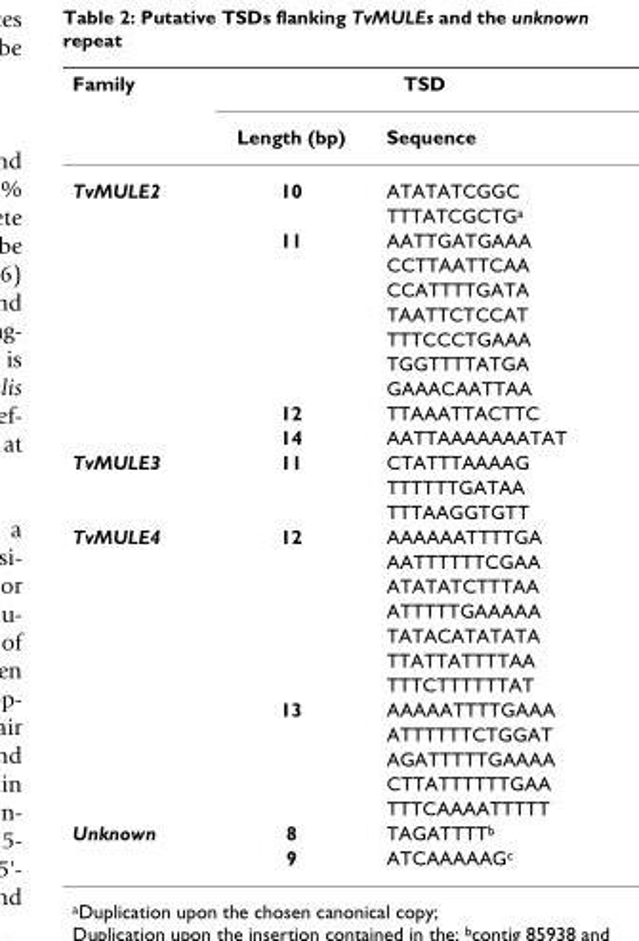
<table><thead><tr><td rowspan="2">Family</td><td colspan="2">TSD</td></tr><tr><td>Length (bp)</td><td>Sequence</td></tr></thead><tbody><tr><td rowspan="11">TvMULE2</td><td>10</td><td>ATATATCGGC</td></tr><tr><td></td><td>TTTATCGCTG<sup>a</sup></td></tr><tr><td>11</td><td>AATTGATGAAA</td></tr><tr><td></td><td>CCTTAATTCAA</td></tr><tr><td></td><td>CCATTTTGATA</td></tr><tr><td></td><td>TAATTCTCCAT</td></tr><tr><td></td><td>TTTCCCTGAAA</td></tr><tr><td></td><td>TGGTTTTATGA</td></tr><tr><td></td><td>GAAACAATTAA</td></tr><tr><td>12</td><td>TTAAATTACTTC</td></tr><tr><td>14</td><td>AATTAAAAAAATAT</td></tr><tr><td rowspan="3">TvMULE3</td><td>11</td><td>CTATTTAAAAG</td></tr><tr><td></td><td>TTTTTTGATAA</td></tr><tr><td></td><td>TTTAAGGTGTT</td></tr><tr><td rowspan="12">TvMULE4</td><td>12</td><td>AAAAAATTTTGA</td></tr><tr><td></td><td>AATTTTTTCGAA</td></tr><tr><td></td><td>ATATATCTTTAA</td></tr><tr><td></td><td>ATTTTTGAAAAA</td></tr><tr><td></td><td>TATACATATATA</td></tr><tr><td></td><td>TTATTATTTTAA</td></tr><tr><td></td><td>TTTCTTTTTTAT</td></tr><tr><td>13</td><td>AAAAATTTTGAAA</td></tr><tr><td></td><td>ATTTTTTCTGGAT</td></tr><tr><td></td><td>AGATTTTTGAAAA</td></tr><tr><td></td><td>CTTATTTTTTGAA</td></tr><tr><td></td><td>TTTCAAAATTTTT</td></tr><tr><td rowspan="2">Unknown</td><td>8</td><td>TAGATTTT<sup>b</sup></td></tr><tr><td>9</td><td>ATCAAAAAG<sup>c</sup></td></tr></tbody></table>